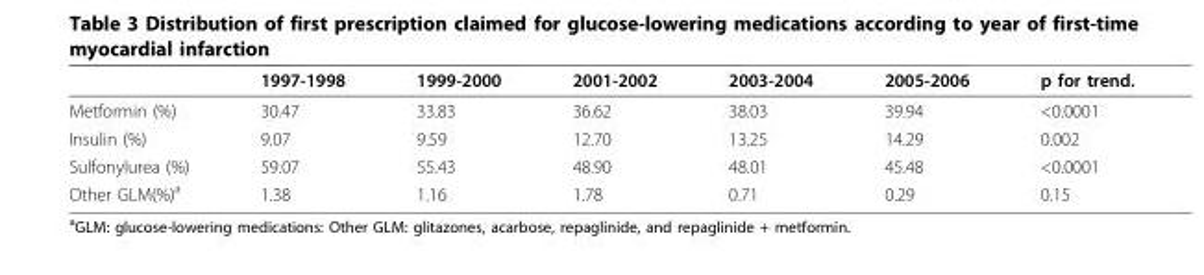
<table><thead><tr><td></td><td>1997-1998</td><td>1999-2000</td><td>2001-2002</td><td>2003-2004</td><td>2005-2006</td><td>p for trend.</td></tr></thead><tbody><tr><td>Metformin (%)</td><td>30.47</td><td>33.83</td><td>36.62</td><td>38.03</td><td>39.94</td><td>&lt;0.0001</td></tr><tr><td>Insulin (%)</td><td>9.07</td><td>9.59</td><td>12.70</td><td>13.25</td><td>14.29</td><td>0.002</td></tr><tr><td>Sulfonylurea (%)</td><td>59.07</td><td>55.43</td><td>48.90</td><td>48.01</td><td>45.48</td><td>&lt;0.0001</td></tr><tr><td>Other GLM(%)<sup>a</sup></td><td>1.38</td><td>1.16</td><td>1.78</td><td>0.71</td><td>0.29</td><td>0.15</td></tr></tbody></table>